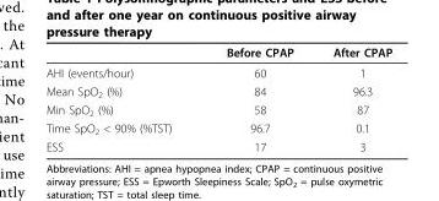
<table><thead><tr><td></td><td>Before CPAP</td><td>After CPAP</td></tr></thead><tbody><tr><td>AHI (events/hour)</td><td>60</td><td>1</td></tr><tr><td>Mean SpO<sub>2</sub> (%)</td><td>84</td><td>96.3</td></tr><tr><td>Min SpO<sub>2</sub> (%)</td><td>58</td><td>87</td></tr><tr><td>Time SpO<sub>2</sub> &lt; 90% (%TST)</td><td>96.7</td><td>0.1</td></tr><tr><td>ESS</td><td>17</td><td>3</td></tr></tbody></table>